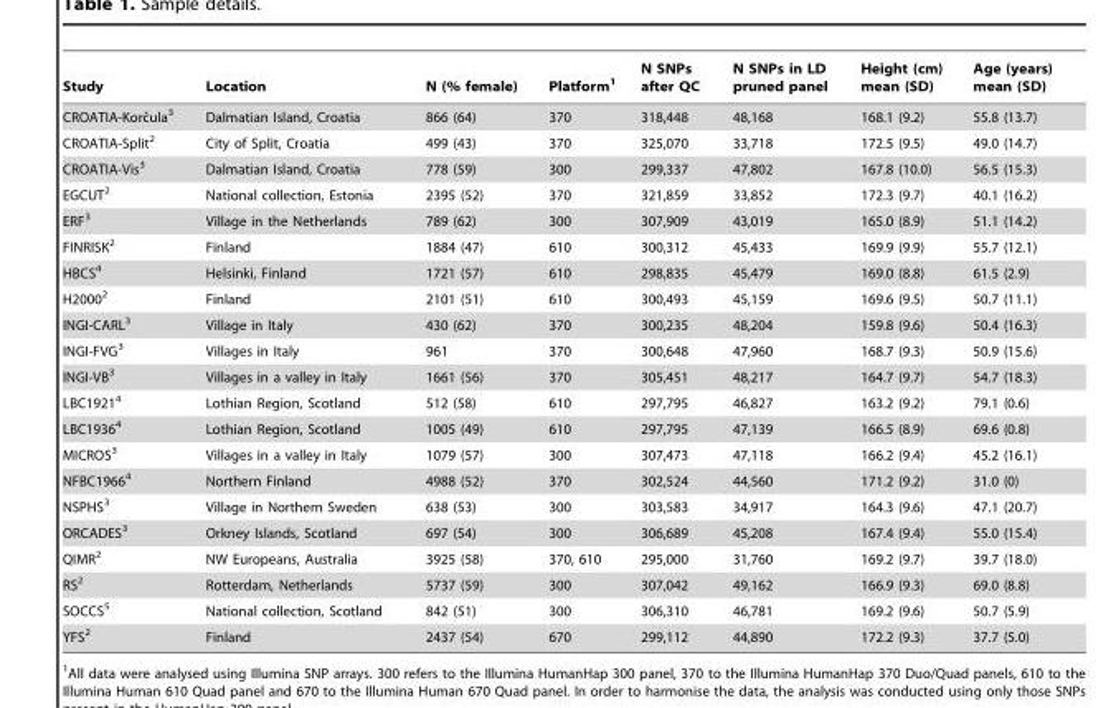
<table><thead><tr><td>Study</td><td>Location</td><td>N (% female)</td><td>Platform<sup>1</sup></td><td>N SNPs after QC</td><td>N SNPs in LD pruned panel</td><td>Height (cm) mean (SD)</td><td>Age (years) mean (SD)</td></tr></thead><tbody><tr><td>CROATIA-Korcˇula3</td><td>Dalmatian Island, Croatia</td><td>866 (64)</td><td>370</td><td>318,448</td><td>48,168</td><td>168.1 (9.2)</td><td>55.8 (13.7)</td></tr><tr><td>CROATIA-Split<sup>2</sup></td><td>City of Split, Croatia</td><td>499 (43)</td><td>370</td><td>325,070</td><td>33,718</td><td>172.5 (9.5)</td><td>49.0 (14.7)</td></tr><tr><td>CROATIA-Vis<sup>3</sup></td><td>Dalmatian Island, Croatia</td><td>778 (59)</td><td>300</td><td>299,337</td><td>47,802</td><td>167.8 (10.0)</td><td>56.5 (15.3)</td></tr><tr><td>EGCUT<sup>2</sup></td><td>National collection, Estonia</td><td>2395 (52)</td><td>370</td><td>321,859</td><td>33,852</td><td>172.3 (9.7)</td><td>40.1 (16.2)</td></tr><tr><td>ERF<sup>3</sup></td><td>Village in the Netherlands</td><td>789 (62)</td><td>300</td><td>307,909</td><td>43,019</td><td>165.0 (8.9)</td><td>51.1 (14.2)</td></tr><tr><td>FINRISK<sup>2</sup></td><td>Finland</td><td>1884 (47)</td><td>610</td><td>300,312</td><td>45,433</td><td>169.9 (9.9)</td><td>55.7 (12.1)</td></tr><tr><td>HBCS<sup>4</sup></td><td>Helsinki, Finland</td><td>1721 (57)</td><td>610</td><td>298,835</td><td>45,479</td><td>169.0 (8.8)</td><td>61.5 (2.9)</td></tr><tr><td>H2000<sup>2</sup></td><td>Finland</td><td>2101 (51)</td><td>610</td><td>300,493</td><td>45,159</td><td>169.6 (9.5)</td><td>50.7 (11.1)</td></tr><tr><td>INGI-CARL<sup>3</sup></td><td>Village in Italy</td><td>430 (62)</td><td>370</td><td>300,235</td><td>48,204</td><td>159.8 (9.6)</td><td>50.4 (16.3)</td></tr><tr><td>INGI-FVG<sup>3</sup></td><td>Villages in Italy</td><td>961</td><td>370</td><td>300,648</td><td>47,960</td><td>168.7 (9.3)</td><td>50.9 (15.6)</td></tr><tr><td>INGI-VB<sup>3</sup></td><td>Villages in a valley in Italy</td><td>1661 (56)</td><td>370</td><td>305,451</td><td>48,217</td><td>164.7 (9.7)</td><td>54.7 (18.3)</td></tr><tr><td>LBC1921<sup>4</sup></td><td>Lothian Region, Scotland</td><td>512 (58)</td><td>610</td><td>297,795</td><td>46,827</td><td>163.2 (9.2)</td><td>79.1 (0.6)</td></tr><tr><td>LBC1936<sup>4</sup></td><td>Lothian Region, Scotland</td><td>1005 (49)</td><td>610</td><td>297,795</td><td>47,139</td><td>166.5 (8.9)</td><td>69.6 (0.8)</td></tr><tr><td>MICROS<sup>3</sup></td><td>Villages in a valley in Italy</td><td>1079 (57)</td><td>300</td><td>307,473</td><td>47,118</td><td>166.2 (9.4)</td><td>45.2 (16.1)</td></tr><tr><td>NFBC1966<sup>4</sup></td><td>Northern Finland</td><td>4988 (52)</td><td>370</td><td>302,524</td><td>44,560</td><td>171.2 (9.2)</td><td>31.0 (0)</td></tr><tr><td>NSPHS<sup>3</sup></td><td>Village in Northern Sweden</td><td>638 (53)</td><td>300</td><td>303,583</td><td>34,917</td><td>164.3 (9.6)</td><td>47.1 (20.7)</td></tr><tr><td>ORCADES<sup>3</sup></td><td>Orkney Islands, Scotland</td><td>697 (54)</td><td>300</td><td>306,689</td><td>45,208</td><td>167.4 (9.4)</td><td>55.0 (15.4)</td></tr><tr><td>QIMR<sup>2</sup></td><td>NW Europeans, Australia</td><td>3925 (58)</td><td>370, 610</td><td>295,000</td><td>31,760</td><td>169.2 (9.7)</td><td>39.7 (18.0)</td></tr><tr><td>RS<sup>2</sup></td><td>Rotterdam, Netherlands</td><td>5737 (59)</td><td>300</td><td>307,042</td><td>49,162</td><td>166.9 (9.3)</td><td>69.0 (8.8)</td></tr><tr><td>SOCCS<sup>5</sup></td><td>National collection, Scotland</td><td>842 (51)</td><td>300</td><td>306,310</td><td>46,781</td><td>169.2 (9.6)</td><td>50.7 (5.9)</td></tr><tr><td>YFS<sup>2</sup></td><td>Finland</td><td>2437 (54)</td><td>670</td><td>299,112</td><td>44,890</td><td>172.2 (9.3)</td><td>37.7 (5.0)</td></tr></tbody></table>